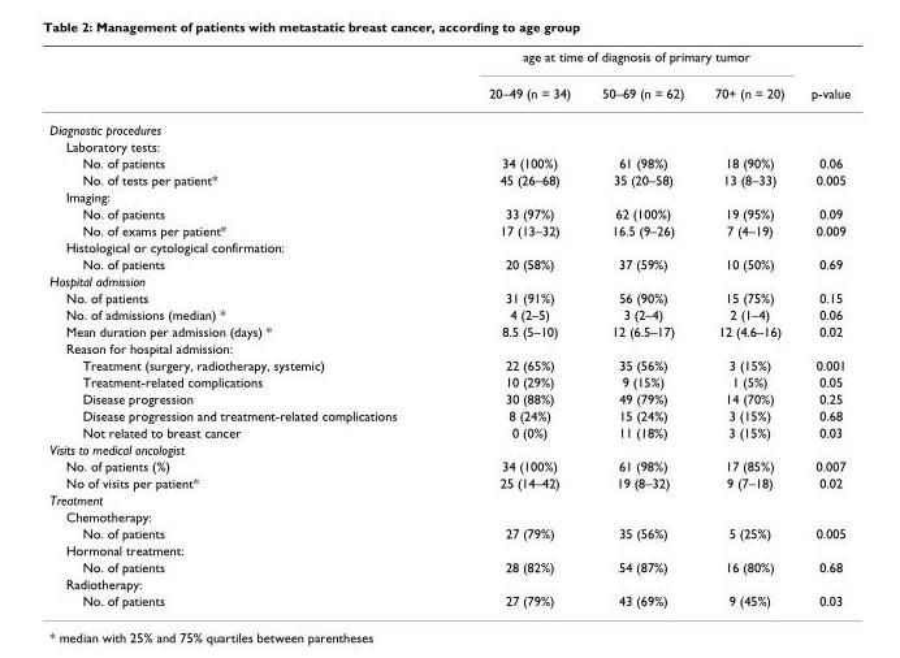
<table><thead><tr><td rowspan="2"></td><td colspan="3">age at time of diagnosis of primary tumor</td><td rowspan="2">p-value</td></tr><tr><td>20–49 (n = 34)</td><td>50–69 (n = 62)</td><td>70+ (n = 20)</td></tr></thead><tbody><tr><td colspan="5">Diagnostic procedures</td></tr><tr><td colspan="5">Laboratory tests:</td></tr><tr><td>No. of patients</td><td>34 (100%)</td><td>61 (98%)</td><td>18 (90%)</td><td>0.06</td></tr><tr><td>No. of tests per patient*</td><td>45 (26–68)</td><td>35 (20–58)</td><td>13 (8–33)</td><td>0.005</td></tr><tr><td colspan="5">Imaging:</td></tr><tr><td>No. of patients</td><td>33 (97%)</td><td>62 (100%)</td><td>19 (95%)</td><td>0.09</td></tr><tr><td>No. of exams per patient*</td><td>17 (13–32)</td><td>16.5 (9–26)</td><td>7 (4–19)</td><td>0.009</td></tr><tr><td colspan="5">Histological or cytological confirmation:</td></tr><tr><td>No. of patients</td><td>20 (58%)</td><td>37 (59%)</td><td>10 (50%)</td><td>0.69</td></tr><tr><td colspan="5">Hospital admission</td></tr><tr><td>No. of patients</td><td>31 (91%)</td><td>56 (90%)</td><td>15 (75%)</td><td>0.15</td></tr><tr><td>No. of admissions (median) *</td><td>4 (2–5)</td><td>3 (2–4)</td><td>2 (1–4)</td><td>0.06</td></tr><tr><td>Mean duration per admission (days) *</td><td>8.5 (5–10)</td><td>12 (6.5–17)</td><td>12 (4.6–16)</td><td>0.02</td></tr><tr><td colspan="5">Reason for hospital admission:</td></tr><tr><td>Treatment (surgery, radiotherapy, systemic)</td><td>22 (65%)</td><td>35 (56%)</td><td>3 (15%)</td><td>0.001</td></tr><tr><td>Treatment-related complications</td><td>10 (29%)</td><td>9 (15%)</td><td>1 (5%)</td><td>0.05</td></tr><tr><td>Disease progression</td><td>30 (88%)</td><td>49 (79%)</td><td>14 (70%)</td><td>0.25</td></tr><tr><td>Disease progression and treatment-related complications</td><td>8 (24%)</td><td>15 (24%)</td><td>3 (15%)</td><td>0.68</td></tr><tr><td>Not related to breast cancer</td><td>0 (0%)</td><td>11 (18%)</td><td>3 (15%)</td><td>0.03</td></tr><tr><td colspan="5">Visits to medical oncologist</td></tr><tr><td>No. of patients (%)</td><td>34 (100%)</td><td>61 (98%)</td><td>17 (85%)</td><td>0.007</td></tr><tr><td>No of visits per patient*</td><td>25 (14–42)</td><td>19 (8–32)</td><td>9 (7–18)</td><td>0.02</td></tr><tr><td colspan="5">Treatment</td></tr><tr><td colspan="5">Chemotherapy:</td></tr><tr><td>No. of patients</td><td>27 (79%)</td><td>35 (56%)</td><td>5 (25%)</td><td>0.005</td></tr><tr><td colspan="5">Hormonal treatment:</td></tr><tr><td>No. of patients</td><td>28 (82%)</td><td>54 (87%)</td><td>16 (80%)</td><td>0.68</td></tr><tr><td colspan="5">Radiotherapy:</td></tr><tr><td>No. of patients</td><td>27 (79%)</td><td>43 (69%)</td><td>9 (45%)</td><td>0.03</td></tr></tbody></table>